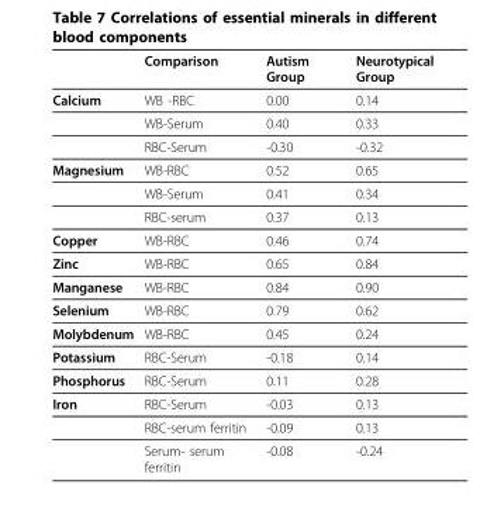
<table><thead><tr><td></td><td>Comparison</td><td>Autism Group</td><td>Neurotypical Group</td></tr></thead><tbody><tr><td rowspan="3">Calcium</td><td>WB -RBC</td><td>0.00</td><td>0.14</td></tr><tr><td>WB-Serum</td><td>0.40</td><td>0.33</td></tr><tr><td>RBC-Serum</td><td>-0.30</td><td>-0.32</td></tr><tr><td rowspan="3">Magnesium</td><td>WB-RBC</td><td>0.52</td><td>0.65</td></tr><tr><td>WB-Serum</td><td>0.41</td><td>0.34</td></tr><tr><td>RBC-serum</td><td>0.37</td><td>0.13</td></tr><tr><td>Copper</td><td>WB-RBC</td><td>0.46</td><td>0.74</td></tr><tr><td>Zinc</td><td>WB-RBC</td><td>0.65</td><td>0.84</td></tr><tr><td>Manganese</td><td>WB-RBC</td><td>0.84</td><td>0.90</td></tr><tr><td>Selenium</td><td>WB-RBC</td><td>0.79</td><td>0.62</td></tr><tr><td>Molybdenum</td><td>WB-RBC</td><td>0.45</td><td>0.24</td></tr><tr><td>Potassium</td><td>RBC-Serum</td><td>-0.18</td><td>0.14</td></tr><tr><td>Phosphorus</td><td>RBC-Serum</td><td>0.11</td><td>0.28</td></tr><tr><td rowspan="3">Iron</td><td>RBC-Serum</td><td>-0.03</td><td>0.13</td></tr><tr><td>RBC-serum ferritin</td><td>-0.09</td><td>0.13</td></tr><tr><td>Serum- serum ferritin</td><td>-0.08</td><td>-0.24</td></tr></tbody></table>